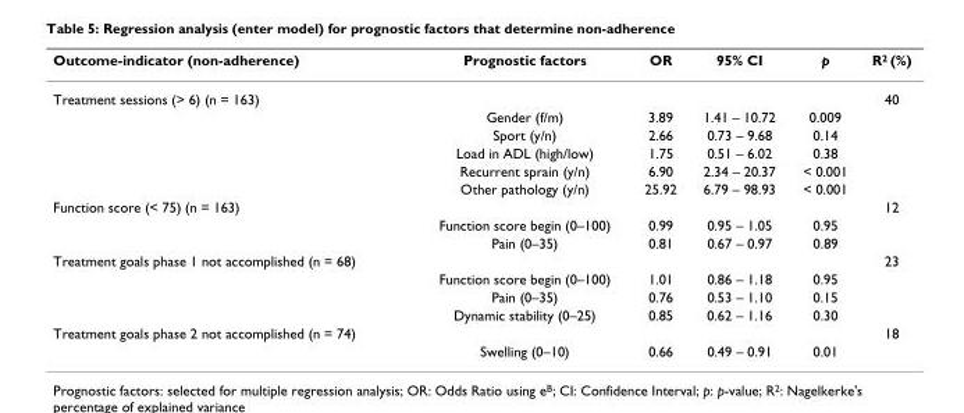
<table><thead><tr><td>Outcome-indicator (non-adherence)</td><td>Prognostic factors</td><td>OR</td><td>95% CI</td><td>p</td><td>R2 (%)</td></tr></thead><tbody><tr><td rowspan="6">Treatment sessions (&gt; 6) (n = 163)</td><td></td><td></td><td></td><td></td><td>40</td></tr><tr><td>Gender (f/m)</td><td>3.89</td><td>1.41 – 10.72</td><td>0.009</td><td></td></tr><tr><td>Sport (y/n)</td><td>2.66</td><td>0.73 – 9.68</td><td>0.14</td><td></td></tr><tr><td>Load in ADL (high/low)</td><td>1.75</td><td>0.51 – 6.02</td><td>0.38</td><td></td></tr><tr><td>Recurrent sprain (y/n)</td><td>6.90</td><td>2.34 – 20.37</td><td>&lt; 0.001</td><td></td></tr><tr><td>Other pathology (y/n)</td><td>25.92</td><td>6.79 – 98.93</td><td>&lt; 0.001</td><td></td></tr><tr><td rowspan="3">Function score (&lt; 75) (n = 163)</td><td></td><td></td><td></td><td></td><td>12</td></tr><tr><td>Function score begin (0–100)</td><td>0.99</td><td>0.95 – 1.05</td><td>0.95</td><td></td></tr><tr><td>Pain (0–35)</td><td>0.81</td><td>0.67 – 0.97</td><td>0.89</td><td></td></tr><tr><td rowspan="4">Treatment goals phase 1 not accomplished (n = 68)</td><td></td><td></td><td></td><td></td><td>23</td></tr><tr><td>Function score begin (0–100)</td><td>1.01</td><td>0.86 – 1.18</td><td>0.95</td><td></td></tr><tr><td>Pain (0–35)</td><td>0.76</td><td>0.53 – 1.10</td><td>0.15</td><td></td></tr><tr><td>Dynamic stability (0–25)</td><td>0.85</td><td>0.62 – 1.16</td><td>0.30</td><td></td></tr><tr><td rowspan="2">Treatment goals phase 2 not accomplished (n = 74)</td><td></td><td></td><td></td><td></td><td>18</td></tr><tr><td>Swelling (0–10)</td><td>0.66</td><td>0.49 – 0.91</td><td>0.01</td><td></td></tr></tbody></table>